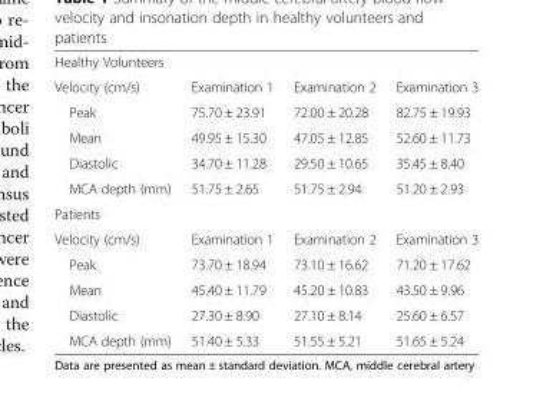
<table><tbody><tr><td colspan="4">Healthy Volunteers</td></tr><tr><td>Velocity (cm/s)</td><td>Examination 1</td><td>Examination 2</td><td>Examination 3</td></tr><tr><td>Peak</td><td>75.70 ± 23.91</td><td>72.00 ± 20.28</td><td>82.75 ± 19.93</td></tr><tr><td>Mean</td><td>49.95 ± 15.30</td><td>47.05 ± 12.85</td><td>52.60 ± 11.73</td></tr><tr><td>Diastolic</td><td>34.70 ± 11.28</td><td>29.50 ± 10.65</td><td>35.45 ± 8.40</td></tr><tr><td>MCA depth (mm)</td><td>51.75 ± 2.65</td><td>51.75 ± 2.94</td><td>51.20 ± 2.93</td></tr><tr><td colspan="4">Patients</td></tr><tr><td>Velocity (cm/s)</td><td>Examination 1</td><td>Examination 2</td><td>Examination 3</td></tr><tr><td>Peak</td><td>73.70 ± 18.94</td><td>73.10 ± 16.62</td><td>71.20 ± 17.62</td></tr><tr><td>Mean</td><td>45.40 ± 11.79</td><td>45.20 ± 10.83</td><td>43.50 ± 9.96</td></tr><tr><td>Diastolic</td><td>27.30 ± 8.90</td><td>27.10 ± 8.14</td><td>25.60 ± 6.57</td></tr><tr><td>MCA depth (mm)</td><td>51.40 ± 5.33</td><td>51.55 ± 5.21</td><td>51.65 ± 5.24</td></tr></tbody></table>